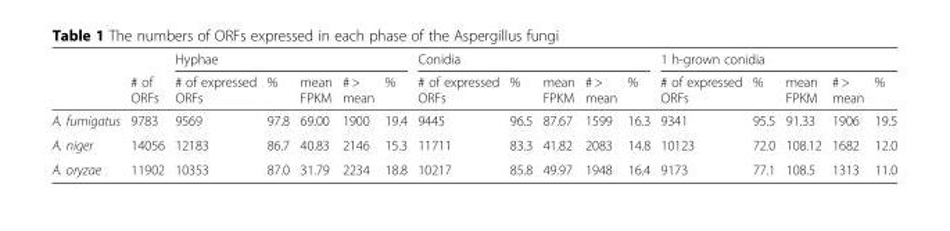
<table><thead><tr><td rowspan="2"></td><td rowspan="2"># of ORFs</td><td colspan="5">Hyphae</td><td colspan="5">Conidia</td><td colspan="5">1 h-grown conidia</td></tr><tr><td># of expressed ORFs</td><td>%</td><td>mean FPKM</td><td># &gt; mean</td><td>%</td><td># of expressed ORFs</td><td>%</td><td>mean FPKM</td><td># &gt; mean</td><td>%</td><td># of expressed ORFs</td><td>%</td><td>mean FPKM</td><td># &gt; mean</td><td>%</td></tr></thead><tbody><tr><td>A. fumigatus</td><td>9783</td><td>9569</td><td>97.8</td><td>69.00</td><td>1900</td><td>19.4</td><td>9445</td><td>96.5</td><td>87.67</td><td>1599</td><td>16.3</td><td>9341</td><td>95.5</td><td>91.33</td><td>1906</td><td>19.5</td></tr><tr><td>A. niger</td><td>14056</td><td>12183</td><td>86.7</td><td>40.83</td><td>2146</td><td>15.3</td><td>11711</td><td>83.3</td><td>41.82</td><td>2083</td><td>14.8</td><td>10123</td><td>72.0</td><td>108.12</td><td>1682</td><td>12.0</td></tr><tr><td>A. oryzae</td><td>11902</td><td>10353</td><td>87.0</td><td>31.79</td><td>2234</td><td>18.8</td><td>10217</td><td>85.8</td><td>49.97</td><td>1948</td><td>16.4</td><td>9173</td><td>77.1</td><td>108.5</td><td>1313</td><td>11.0</td></tr></tbody></table>